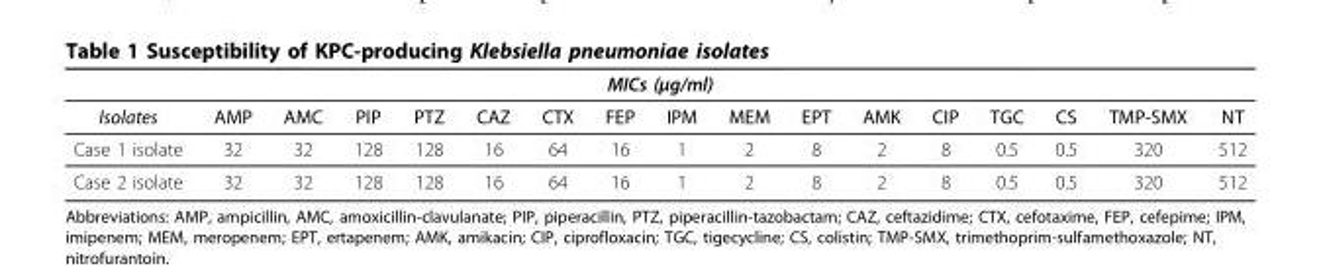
<table><thead><tr><td colspan="17">MICs (μg/ml)</td></tr><tr><td>Isolates</td><td>AMP</td><td>AMC</td><td>PIP</td><td>PTZ</td><td>CAZ</td><td>CTX</td><td>FEP</td><td>IPM</td><td>MEM</td><td>EPT</td><td>AMK</td><td>CIP</td><td>TGC</td><td>CS</td><td>TMP-SMX</td><td>NT</td></tr></thead><tbody><tr><td>Case 1 isolate</td><td>32</td><td>32</td><td>128</td><td>128</td><td>16</td><td>64</td><td>16</td><td>1</td><td>2</td><td>8</td><td>2</td><td>8</td><td>0.5</td><td>0.5</td><td>320</td><td>512</td></tr><tr><td>Case 2 isolate</td><td>32</td><td>32</td><td>128</td><td>128</td><td>16</td><td>64</td><td>16</td><td>1</td><td>2</td><td>8</td><td>2</td><td>8</td><td>0.5</td><td>0.5</td><td>320</td><td>512</td></tr></tbody></table>